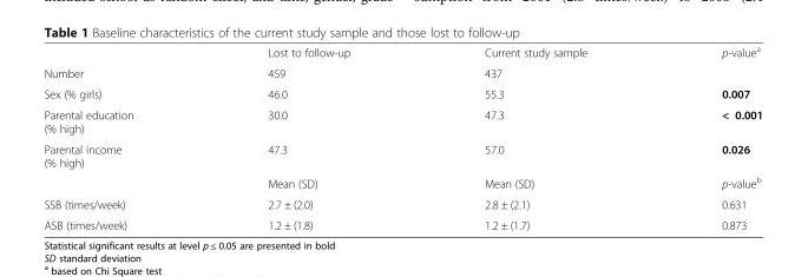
<table><thead><tr><td></td><td>Lost to follow-up</td><td>Current study sample</td><td>p-value<sup>a</sup></td></tr></thead><tbody><tr><td>Number</td><td>459</td><td>437</td><td></td></tr><tr><td>Sex (% girls)</td><td>46.0</td><td>55.3</td><td>0.007</td></tr><tr><td>Parental education (% high)</td><td>30.0</td><td>47.3</td><td>&lt; 0.001</td></tr><tr><td rowspan="2">Parental income (% high)</td><td>47.3</td><td>57.0</td><td>0.026</td></tr><tr><td>Mean (SD)</td><td>Mean (SD)</td><td>p-value<sup>b</sup></td></tr><tr><td>SSB (times/week)</td><td>2.7 ± (2.0)</td><td>2.8 ± (2.1)</td><td>0.631</td></tr><tr><td>ASB (times/week)</td><td>1.2 ± (1.8)</td><td>1.2 ± (1.7)</td><td>0.873</td></tr></tbody></table>